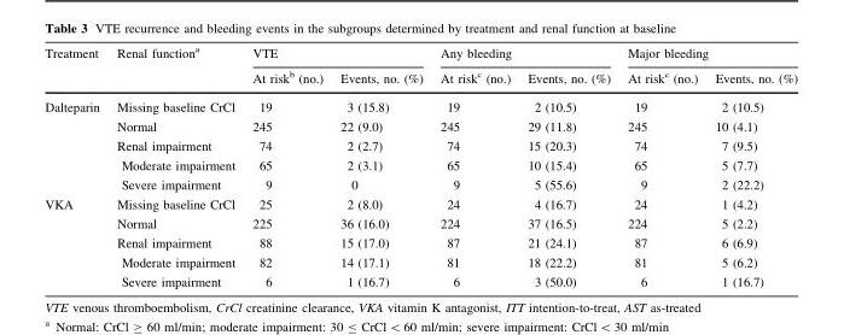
<table><thead><tr><td rowspan="2">Treatment</td><td rowspan="2">Renal function<sup>a</sup></td><td colspan="2">VTE</td><td colspan="2">Any bleeding</td><td colspan="2">Major bleeding</td></tr><tr><td>At risk<sup>b</sup> (no.)</td><td>Events, no. (%)</td><td>At risk<sup>c</sup> (no.)</td><td>Events, no. (%)</td><td>At risk<sup>c</sup> (no.)</td><td>Events, no. (%)</td></tr></thead><tbody><tr><td rowspan="5">Dalteparin</td><td>Missing baseline CrCl</td><td>19</td><td>3 (15.8)</td><td>19</td><td>2 (10.5)</td><td>19</td><td>2 (10.5)</td></tr><tr><td>Normal</td><td>245</td><td>22 (9.0)</td><td>245</td><td>29 (11.8)</td><td>245</td><td>10 (4.1)</td></tr><tr><td>Renal impairment</td><td>74</td><td>2 (2.7)</td><td>74</td><td>15 (20.3)</td><td>74</td><td>7 (9.5)</td></tr><tr><td>Moderate impairment</td><td>65</td><td>2 (3.1)</td><td>65</td><td>10 (15.4)</td><td>65</td><td>5 (7.7)</td></tr><tr><td>Severe impairment</td><td>9</td><td>0</td><td>9</td><td>5 (55.6)</td><td>9</td><td>2 (22.2)</td></tr><tr><td rowspan="5">VKA</td><td>Missing baseline CrCl</td><td>25</td><td>2 (8.0)</td><td>24</td><td>4 (16.7)</td><td>24</td><td>1 (4.2)</td></tr><tr><td>Normal</td><td>225</td><td>36 (16.0)</td><td>224</td><td>37 (16.5)</td><td>224</td><td>5 (2.2)</td></tr><tr><td>Renal impairment</td><td>88</td><td>15 (17.0)</td><td>87</td><td>21 (24.1)</td><td>87</td><td>6 (6.9)</td></tr><tr><td>Moderate impairment</td><td>82</td><td>14 (17.1)</td><td>81</td><td>18 (22.2)</td><td>81</td><td>5 (6.2)</td></tr><tr><td>Severe impairment</td><td>6</td><td>1 (16.7)</td><td>6</td><td>3 (50.0)</td><td>6</td><td>1 (16.7)</td></tr></tbody></table>